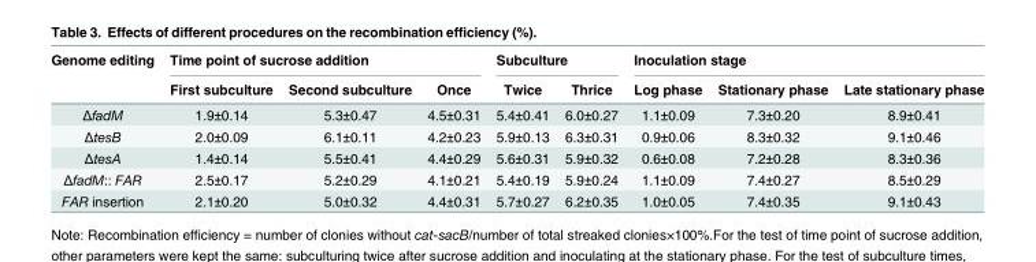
<table><thead><tr><td rowspan="2">Genome editing</td><td colspan="3">Time point of sucrose addition</td><td colspan="2">Subculture</td><td colspan="3">Inoculation stage</td></tr><tr><td>First subculture</td><td>Second subculture</td><td>Once</td><td>Twice</td><td>Thrice</td><td>Log phase</td><td>Stationary phase</td><td>Late stationary phase</td></tr></thead><tbody><tr><td>ΔfadM</td><td>1.9±0.14</td><td>5.3±0.47</td><td>4.5±0.31</td><td>5.4±0.41</td><td>6.0±0.27</td><td>1.1±0.09</td><td>7.3±0.20</td><td>8.9±0.41</td></tr><tr><td>ΔtesB</td><td>2.0±0.09</td><td>6.1±0.11</td><td>4.2±0.23</td><td>5.9±0.13</td><td>6.3±0.31</td><td>0.9±0.06</td><td>8.3±0.32</td><td>9.1±0.46</td></tr><tr><td>ΔtesA</td><td>1.4±0.14</td><td>5.5±0.41</td><td>4.4±0.29</td><td>5.6±0.31</td><td>5.9±0.32</td><td>0.6±0.08</td><td>7.2±0.28</td><td>8.3±0.36</td></tr><tr><td>ΔfadM:: FAR</td><td>2.5±0.17</td><td>5.2±0.29</td><td>4.1±0.21</td><td>5.4±0.19</td><td>5.9±0.24</td><td>1.1±0.09</td><td>7.4±0.27</td><td>8.5±0.29</td></tr><tr><td>FAR insertion</td><td>2.1±0.20</td><td>5.0±0.32</td><td>4.4±0.31</td><td>5.7±0.27</td><td>6.2±0.35</td><td>1.0±0.05</td><td>7.4±0.35</td><td>9.1±0.43</td></tr></tbody></table>